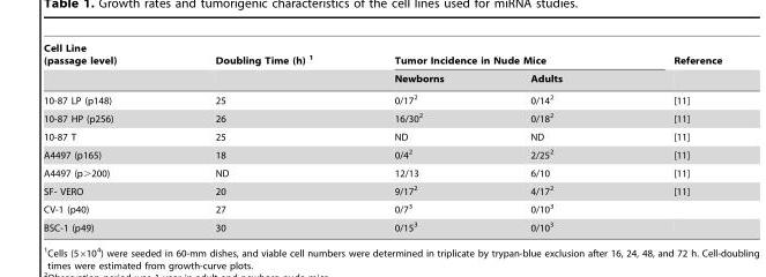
<table><thead><tr><td rowspan="2">Cell Line (passage level)</td><td rowspan="2">Doubling Time (h) 1</td><td colspan="2">Tumor Incidence in Nude Mice</td><td rowspan="2">Reference</td></tr><tr><td>Newborns</td><td>Adults</td></tr></thead><tbody><tr><td>10-87 LP (p148)</td><td>25</td><td>0/17<sup>2</sup></td><td>0/14<sup>2</sup></td><td>[11]</td></tr><tr><td>10-87 HP (p256)</td><td>26</td><td>16/30<sup>2</sup></td><td>0/18<sup>2</sup></td><td>[11]</td></tr><tr><td>10-87 T</td><td>25</td><td>ND</td><td>ND</td><td>[11]</td></tr><tr><td>A4497 (p165)</td><td>18</td><td>0/4<sup>2</sup></td><td>2/25<sup>2</sup></td><td>[11]</td></tr><tr><td>A4497 (p&gt;200)</td><td>ND</td><td>12/13</td><td>6/10</td><td>[11]</td></tr><tr><td>SF- VERO</td><td>20</td><td>9/17<sup>2</sup></td><td>4/17<sup>2</sup></td><td>[11]</td></tr><tr><td>CV-1 (p40)</td><td>27</td><td>0/7<sup>3</sup></td><td>0/10<sup>3</sup></td><td></td></tr><tr><td>BSC-1 (p49)</td><td>30</td><td>0/15<sup>3</sup></td><td>0/10<sup>3</sup></td><td></td></tr></tbody></table>